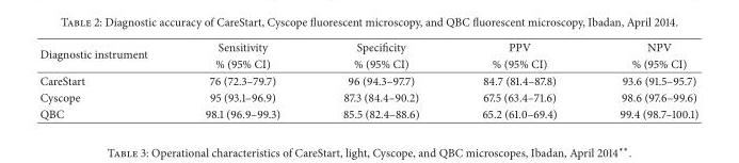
<table><thead><tr><td rowspan="2">Diagnostic instrument</td><td rowspan="2">Sensitivity % (95% CI)</td><td rowspan="2">Specificity % (95% CI)</td><td rowspan="2">PPV % (95% CI)</td><td rowspan="2">NPV % (95% CI)</td></tr><tr></tr></thead><tbody><tr><td>CareStart</td><td>76 (72.3–79.7)</td><td>96 (94.3–97.7)</td><td>84.7 (81.4–87.8)</td><td>93.6 (91.5–95.7)</td></tr><tr><td>Cyscope</td><td>95 (93.1–96.9)</td><td>87.3 (84.4–90.2)</td><td>67.5 (63.4–71.6)</td><td>98.6 (97.6–99.6)</td></tr><tr><td>QBC</td><td>98.1 (96.9–99.3)</td><td>85.5 (82.4–88.6)</td><td>65.2 (61.0–69.4)</td><td>99.4 (98.7–100.1)</td></tr></tbody></table>